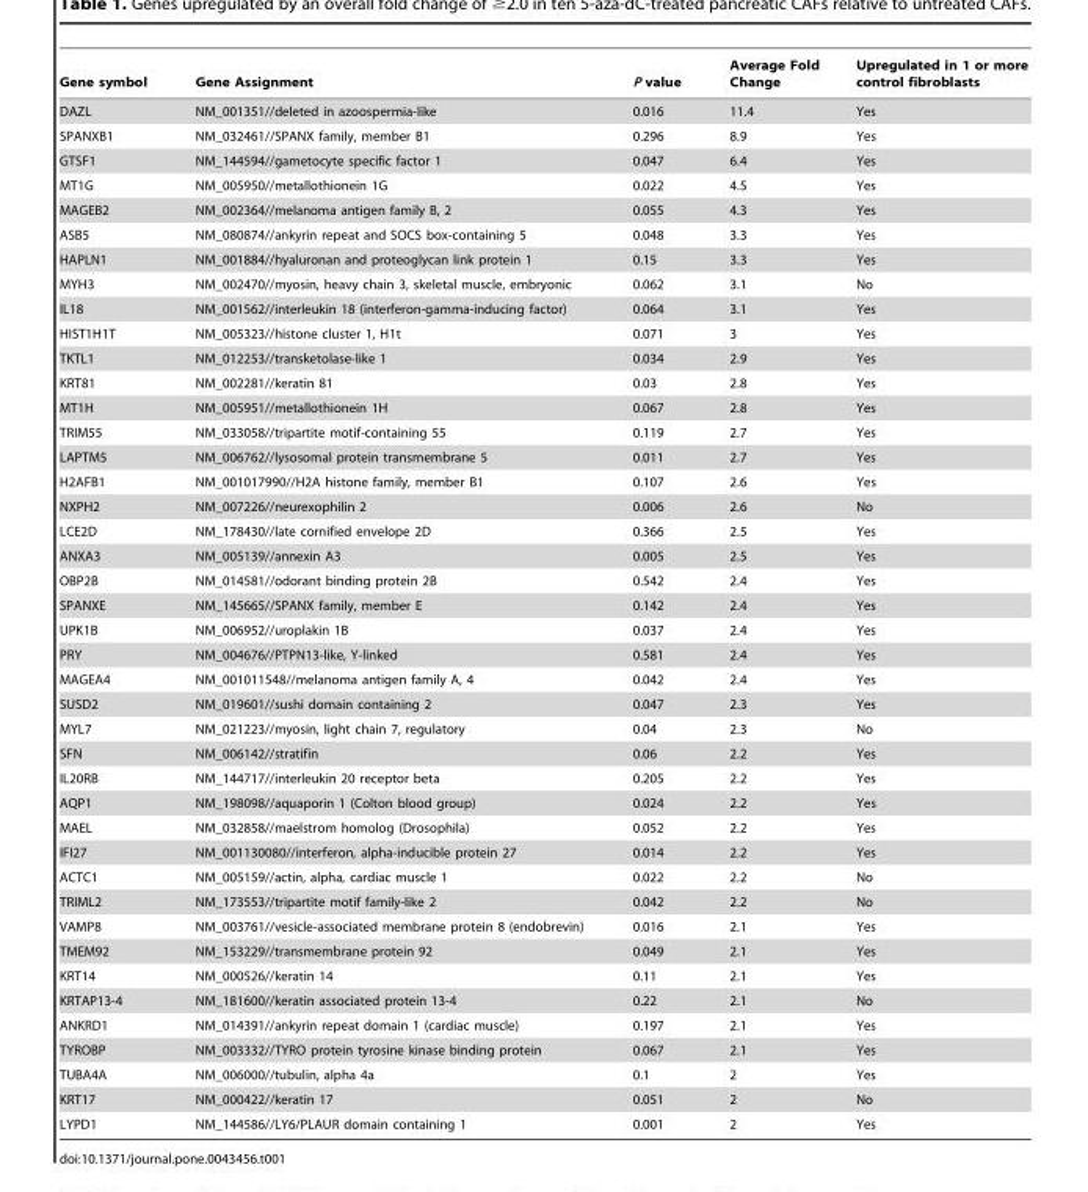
<table><thead><tr><td>Gene symbol</td><td>Gene Assignment</td><td>P value</td><td>Average Fold Change</td><td>Upregulated in 1 or more control fibroblasts</td></tr></thead><tbody><tr><td>DAZL</td><td>NM_001351//deleted in azoospermia-like</td><td>0.016</td><td>11.4</td><td>Yes</td></tr><tr><td>SPANXB1</td><td>NM_032461//SPANX family, member B1</td><td>0.296</td><td>8.9</td><td>Yes</td></tr><tr><td>GTSF1</td><td>NM_144594//gametocyte specific factor 1</td><td>0.047</td><td>6.4</td><td>Yes</td></tr><tr><td>MT1G</td><td>NM_005950//metallothionein 1G</td><td>0.022</td><td>4.5</td><td>Yes</td></tr><tr><td>MAGEB2</td><td>NM_002364//melanoma antigen family B, 2</td><td>0.055</td><td>4.3</td><td>Yes</td></tr><tr><td>ASB5</td><td>NM_080874//ankyrin repeat and SOCS box-containing 5</td><td>0.048</td><td>3.3</td><td>Yes</td></tr><tr><td>HAPLN1</td><td>NM_001884//hyaluronan and proteoglycan link protein 1</td><td>0.15</td><td>3.3</td><td>Yes</td></tr><tr><td>MYH3</td><td>NM_002470//myosin, heavy chain 3, skeletal muscle, embryonic</td><td>0.062</td><td>3.1</td><td>No</td></tr><tr><td>IL18</td><td>NM_001562//interleukin 18 (interferon-gamma-inducing factor)</td><td>0.064</td><td>3.1</td><td>Yes</td></tr><tr><td>HIST1H1T</td><td>NM_005323//histone cluster 1, H1t</td><td>0.071</td><td>3</td><td>Yes</td></tr><tr><td>TKTL1</td><td>NM_012253//transketolase-like 1</td><td>0.034</td><td>2.9</td><td>Yes</td></tr><tr><td>KRT81</td><td>NM_002281//keratin 81</td><td>0.03</td><td>2.8</td><td>Yes</td></tr><tr><td>MT1H</td><td>NM_005951//metallothionein 1H</td><td>0.067</td><td>2.8</td><td>Yes</td></tr><tr><td>TRIM55</td><td>NM_033058//tripartite motif-containing 55</td><td>0.119</td><td>2.7</td><td>Yes</td></tr><tr><td>LAPTM5</td><td>NM_006762//lysosomal protein transmembrane 5</td><td>0.011</td><td>2.7</td><td>Yes</td></tr><tr><td>H2AFB1</td><td>NM_001017990//H2A histone family, member B1</td><td>0.107</td><td>2.6</td><td>Yes</td></tr><tr><td>NXPH2</td><td>NM_007226//neurexophilin 2</td><td>0.006</td><td>2.6</td><td>No</td></tr><tr><td>LCE2D</td><td>NM_178430//late cornified envelope 2D</td><td>0.366</td><td>2.5</td><td>Yes</td></tr><tr><td>ANXA3</td><td>NM_005139//annexin A3</td><td>0.005</td><td>2.5</td><td>Yes</td></tr><tr><td>OBP2B</td><td>NM_014581//odorant binding protein 2B</td><td>0.542</td><td>2.4</td><td>Yes</td></tr><tr><td>SPANXE</td><td>NM_145665//SPANX family, member E</td><td>0.142</td><td>2.4</td><td>Yes</td></tr><tr><td>UPK1B</td><td>NM_006952//uroplakin 1B</td><td>0.037</td><td>2.4</td><td>Yes</td></tr><tr><td>PRY</td><td>NM_004676//PTPN13-like, Y-linked</td><td>0.581</td><td>2.4</td><td>Yes</td></tr><tr><td>MAGEA4</td><td>NM_001011548//melanoma antigen family A, 4</td><td>0.042</td><td>2.4</td><td>Yes</td></tr><tr><td>SUSD2</td><td>NM_019601//sushi domain containing 2</td><td>0.047</td><td>2.3</td><td>Yes</td></tr><tr><td>MYL7</td><td>NM_021223//myosin, light chain 7, regulatory</td><td>0.04</td><td>2.3</td><td>No</td></tr><tr><td>SFN</td><td>NM_006142//stratifin</td><td>0.06</td><td>2.2</td><td>Yes</td></tr><tr><td>IL20RB</td><td>NM_144717//interleukin 20 receptor beta</td><td>0.205</td><td>2.2</td><td>Yes</td></tr><tr><td>AQP1</td><td>NM_198098//aquaporin 1 (Colton blood group)</td><td>0.024</td><td>2.2</td><td>Yes</td></tr><tr><td>MAEL</td><td>NM_032858//maelstrom homolog (Drosophila)</td><td>0.052</td><td>2.2</td><td>Yes</td></tr><tr><td>IFI27</td><td>NM_001130080//interferon, alpha-inducible protein 27</td><td>0.014</td><td>2.2</td><td>Yes</td></tr><tr><td>ACTC1</td><td>NM_005159//actin, alpha, cardiac muscle 1</td><td>0.022</td><td>2.2</td><td>No</td></tr><tr><td>TRIML2</td><td>NM_173553//tripartite motif family-like 2</td><td>0.042</td><td>2.2</td><td>No</td></tr><tr><td>VAMP8</td><td>NM_003761//vesicle-associated membrane protein 8 (endobrevin)</td><td>0.016</td><td>2.1</td><td>Yes</td></tr><tr><td>TMEM92</td><td>NM_153229//transmembrane protein 92</td><td>0.049</td><td>2.1</td><td>Yes</td></tr><tr><td>KRT14</td><td>NM_000526//keratin 14</td><td>0.11</td><td>2.1</td><td>Yes</td></tr><tr><td>KRTAP13-4</td><td>NM_181600//keratin associated protein 13-4</td><td>0.22</td><td>2.1</td><td>No</td></tr><tr><td>ANKRD1</td><td>NM_014391//ankyrin repeat domain 1 (cardiac muscle)</td><td>0.197</td><td>2.1</td><td>Yes</td></tr><tr><td>TYROBP</td><td>NM_003332//TYRO protein tyrosine kinase binding protein</td><td>0.067</td><td>2.1</td><td>Yes</td></tr><tr><td>TUBA4A</td><td>NM_006000//tubulin, alpha 4a</td><td>0.1</td><td>2</td><td>Yes</td></tr><tr><td>KRT17</td><td>NM_000422//keratin 17</td><td>0.051</td><td>2</td><td>No</td></tr><tr><td>LYPD1</td><td>NM_144586//LY6/PLAUR domain containing 1</td><td>0.001</td><td>2</td><td>Yes</td></tr></tbody></table>